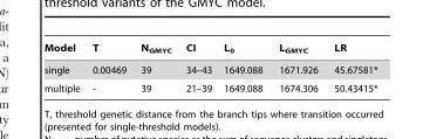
<table><thead><tr><td>Model</td><td>T</td><td>N<sub>GMYC</sub></td><td>CI</td><td>L<sub>0</sub></td><td>L<sub>GMYC</sub></td><td>LR</td></tr></thead><tbody><tr><td>single</td><td>0.00469</td><td>39</td><td>34–43</td><td>1649.088</td><td>1671.926</td><td>45.67581*</td></tr><tr><td>multiple</td><td>-</td><td>39</td><td>21–39</td><td>1649.088</td><td>1674.306</td><td>50.43415*</td></tr></tbody></table>